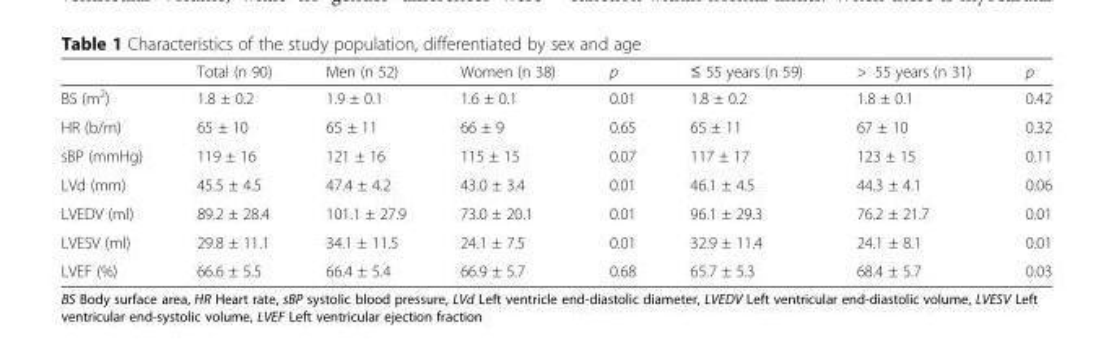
<table><thead><tr><td></td><td>Total (n 90)</td><td>Men (n 52)</td><td>Women (n 38)</td><td>p</td><td>≤ 55 years (n 59)</td><td>&gt; 55 years (n 31)</td><td>p</td></tr></thead><tbody><tr><td>BS (m<sup>2</sup>)</td><td>1.8 ± 0.2</td><td>1.9 ± 0.1</td><td>1.6 ± 0.1</td><td>0.01</td><td>1.8 ± 0.2</td><td>1.8 ± 0.1</td><td>0.42</td></tr><tr><td>HR (b/m)</td><td>65 ± 10</td><td>65 ± 11</td><td>66 ± 9</td><td>0.65</td><td>65 ± 11</td><td>67 ± 10</td><td>0.32</td></tr><tr><td>sBP (mmHg)</td><td>119 ± 16</td><td>121 ± 16</td><td>115 ± 15</td><td>0.07</td><td>117 ± 17</td><td>123 ± 15</td><td>0.11</td></tr><tr><td>LVd (mm)</td><td>45.5 ± 4.5</td><td>47.4 ± 4.2</td><td>43.0 ± 3.4</td><td>0.01</td><td>46.1 ± 4.5</td><td>44.3 ± 4.1</td><td>0.06</td></tr><tr><td>LVEDV (ml)</td><td>89.2 ± 28.4</td><td>101.1 ± 27.9</td><td>73.0 ± 20.1</td><td>0.01</td><td>96.1 ± 29.3</td><td>76.2 ± 21.7</td><td>0.01</td></tr><tr><td>LVESV (ml)</td><td>29.8 ± 11.1</td><td>34.1 ± 11.5</td><td>24.1 ± 7.5</td><td>0.01</td><td>32.9 ± 11.4</td><td>24.1 ± 8.1</td><td>0.01</td></tr><tr><td>LVEF (%)</td><td>66.6 ± 5.5</td><td>66.4 ± 5.4</td><td>66.9 ± 5.7</td><td>0.68</td><td>65.7 ± 5.3</td><td>68.4 ± 5.7</td><td>0.03</td></tr></tbody></table>